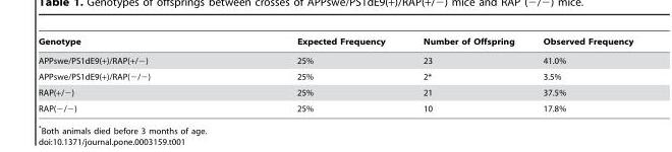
<table><thead><tr><td>Genotype</td><td>Expected Frequency</td><td>Number of Offspring</td><td>Observed Frequency</td></tr></thead><tbody><tr><td>APPswe/PS1dE9(+)/RAP(+/−)</td><td>25%</td><td>23</td><td>41.0%</td></tr><tr><td>APPswe/PS1dE9(+)/RAP(−/−)</td><td>25%</td><td>2*</td><td>3.5%</td></tr><tr><td>RAP(+/−)</td><td>25%</td><td>21</td><td>37.5%</td></tr><tr><td>RAP(−/−)</td><td>25%</td><td>10</td><td>17.8%</td></tr></tbody></table>